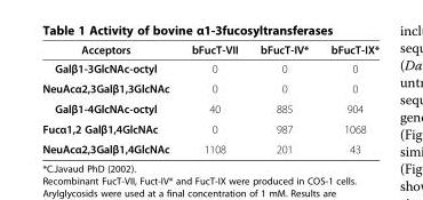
<table><thead><tr><td>Acceptors</td><td>bFucT-VII</td><td>bFucT-IV*</td><td>bFucT-IX*</td></tr></thead><tbody><tr><td>Galβ1-3GlcNAc-octyl</td><td>0</td><td>0</td><td>0</td></tr><tr><td>NeuAcα2,3Galβ1,3GlcNAc</td><td>0</td><td>0</td><td>0</td></tr><tr><td>Galβ1-4GlcNAc-octyl</td><td>40</td><td>885</td><td>904</td></tr><tr><td>Fucα1,2 Galβ1,4GlcNAc</td><td>0</td><td>987</td><td>1068</td></tr><tr><td>NeuAcα2,3Galβ1,4GlcNAc</td><td>1108</td><td>201</td><td>43</td></tr></tbody></table>